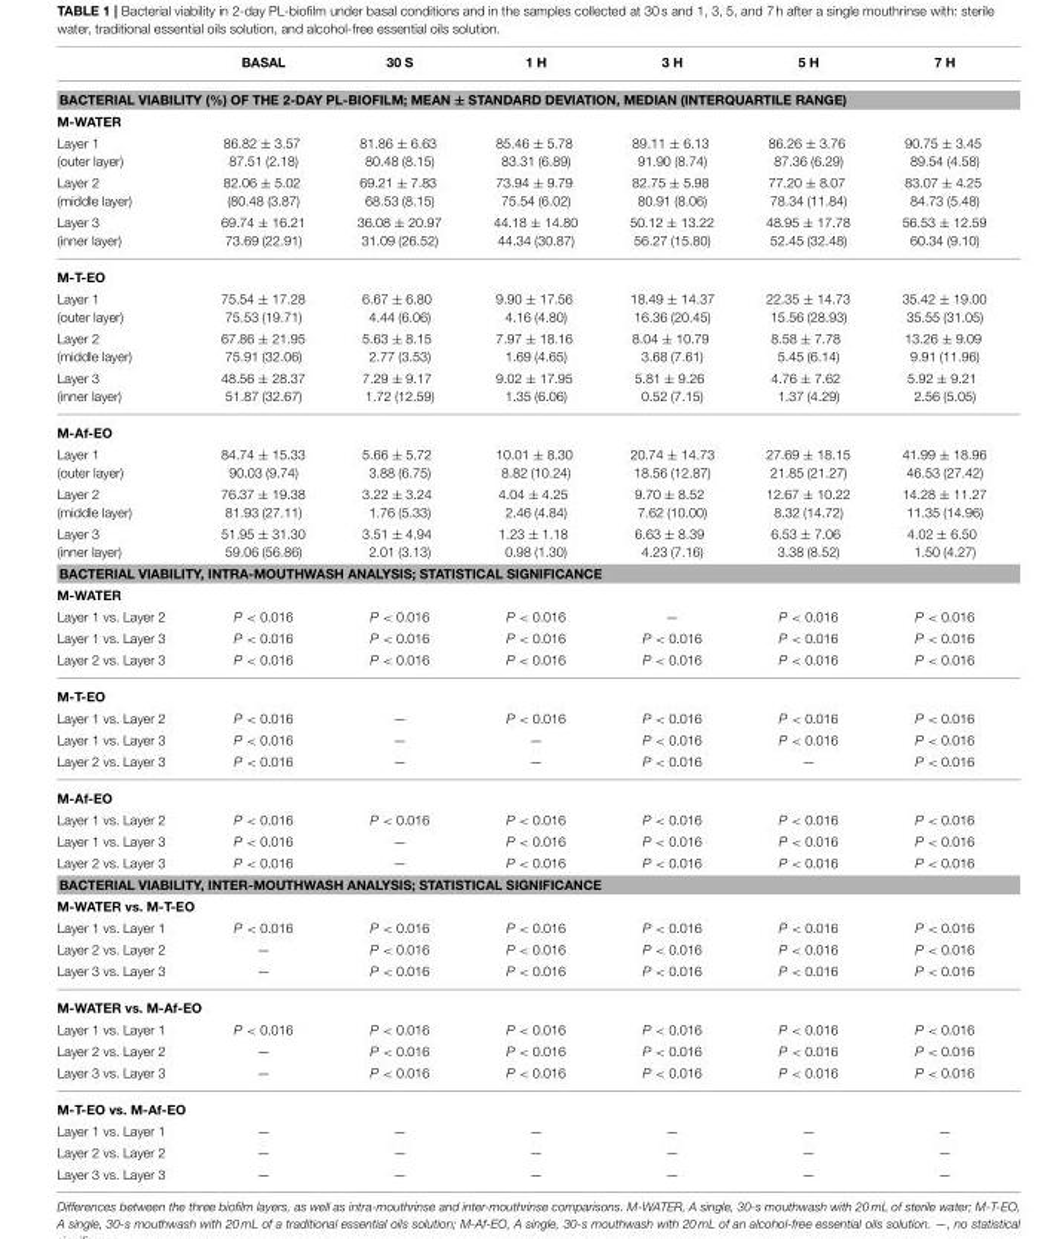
<table><thead><tr><td></td><td>BASAL</td><td>30 S</td><td>1 H</td><td>3 H</td><td>5 H</td><td>7 H</td></tr></thead><tbody><tr><td colspan="7">BACTERIAL VIABILITY (%) OF THE 2-DAY PL-BIOFILM; MEAN ± STANDARD DEVIATION, MEDIAN (INTERQUARTILE RANGE)</td></tr><tr><td colspan="7">M-WATER</td></tr><tr><td>Layer 1 (outer layer)</td><td>86.82 ± 3.57 87.51 (2.18)</td><td>81.86 ± 6.63 80.48 (8.15)</td><td>85.46 ± 5.78 83.31 (6.89)</td><td>89.11 ± 6.13 91.90 (8.74)</td><td>86.26 ± 3.76 87.36 (6.29)</td><td>90.75 ± 3.45 89.54 (4.58)</td></tr><tr><td>Layer 2 (middle layer)</td><td>82.06 ± 5.02 (80.48 (3.87)</td><td>69.21 ± 7.83 68.53 (8.15)</td><td>73.94 ± 9.79 75.54 (6.02)</td><td>82.75 ± 5.98 80.91 (8.06)</td><td>77.20 ± 8.07 78.34 (11.84)</td><td>83.07 ± 4.25 84.73 (5.48)</td></tr><tr><td>Layer 3 (inner layer)</td><td>69.74 ± 16.21 73.69 (22.91)</td><td>36.08 ± 20.97 31.09 (26.52)</td><td>44.18 ± 14.80 44.34 (30.87)</td><td>50.12 ± 13.22 56.27 (15.80)</td><td>48.95 ± 17.78 52.45 (32.48)</td><td>56.53 ± 12.59 60.34 (9.10)</td></tr><tr><td colspan="7">M-T-EO</td></tr><tr><td>Layer 1 (outer layer)</td><td>75.54 ± 17.28 75.53 (19.71)</td><td>6.67 ± 6.80 4.44 (6.06)</td><td>9.90 ± 17.56 4.16 (4.80)</td><td>18.49 ± 14.37 16.36 (20.45)</td><td>22.35 ± 14.73 15.56 (28.93)</td><td>35.42 ± 19.00 35.55 (31.05)</td></tr><tr><td>Layer 2 (middle layer)</td><td>67.86 ± 21.95 75.91 (32.06)</td><td>5.63 ± 8.15 2.77 (3.53)</td><td>7.97 ± 18.16 1.69 (4.65)</td><td>8.04 ± 10.79 3.68 (7.61)</td><td>8.58 ± 7.78 5.45 (6.14)</td><td>13.26 ± 9.09 9.91 (11.96)</td></tr><tr><td>Layer 3 (inner layer)</td><td>48.56 ± 28.37 51.87 (32.67)</td><td>7.29 ± 9.17 1.72 (12.59)</td><td>9.02 ± 17.95 1.35 (6.06)</td><td>5.81 ± 9.26 0.52 (7.15)</td><td>4.76 ± 7.62 1.37 (4.29)</td><td>5.92 ± 9.21 2.56 (5.05)</td></tr><tr><td colspan="7">M-Af-EO</td></tr><tr><td>Layer 1 (outer layer)</td><td>84.74 ± 15.33 90.03 (9.74)</td><td>5.66 ± 5.72 3.88 (6.75)</td><td>10.01 ± 8.30 8.82 (10.24)</td><td>20.74 ± 14.73 18.56 (12.87)</td><td>27.69 ± 18.15 21.85 (21.27)</td><td>41.99 ± 18.96 46.53 (27.42)</td></tr><tr><td>Layer 2 (middle layer)</td><td>76.37 ± 19.38 81.93 (27.11)</td><td>3.22 ± 3.24 1.76 (5.33)</td><td>4.04 ± 4.25 2.46 (4.84)</td><td>9.70 ± 8.52 7.62 (10.00)</td><td>12.67 ± 10.22 8.32 (14.72)</td><td>14.28 ± 11.27 11.35 (14.96)</td></tr><tr><td>Layer 3 (inner layer)</td><td>51.95 ± 31.30 59.06 (56.86)</td><td>3.51 ± 4.94 2.01 (3.13)</td><td>1.23 ± 1.18 0.98 (1.30)</td><td>6.63 ± 8.39 4.23 (7.16)</td><td>6.53 ± 7.06 3.38 (8.52)</td><td>4.02 ± 6.50 1.50 (4.27)</td></tr><tr><td colspan="7">BACTERIAL VIABILITY, INTRA-MOUTHWASH ANALYSIS; STATISTICAL SIGNIFICANCE</td></tr><tr><td colspan="7">M-WATER</td></tr><tr><td>Layer 1 vs. Layer 2</td><td>P &lt; 0.016</td><td>P &lt; 0.016</td><td>P &lt; 0.016</td><td>—</td><td>P &lt; 0.016</td><td>P &lt; 0.016</td></tr><tr><td>Layer 1 vs. Layer 3</td><td>P &lt; 0.016</td><td>P &lt; 0.016</td><td>P &lt; 0.016</td><td>P &lt; 0.016</td><td>P &lt; 0.016</td><td>P &lt; 0.016</td></tr><tr><td>Layer 2 vs. Layer 3</td><td>P &lt; 0.016</td><td>P &lt; 0.016</td><td>P &lt; 0.016</td><td>P &lt; 0.016</td><td>P &lt; 0.016</td><td>P &lt; 0.016</td></tr><tr><td colspan="7">M-T-EO</td></tr><tr><td>Layer 1 vs. Layer 2</td><td>P &lt; 0.016</td><td>—</td><td>P &lt; 0.016</td><td>P &lt; 0.016</td><td>P &lt; 0.016</td><td>P &lt; 0.016</td></tr><tr><td>Layer 1 vs. Layer 3</td><td>P &lt; 0.016</td><td>—</td><td>—</td><td>P &lt; 0.016</td><td>P &lt; 0.016</td><td>P &lt; 0.016</td></tr><tr><td>Layer 2 vs. Layer 3</td><td>P &lt; 0.016</td><td>—</td><td>—</td><td>P &lt; 0.016</td><td>—</td><td>P &lt; 0.016</td></tr><tr><td colspan="7">M-Af-EO</td></tr><tr><td>Layer 1 vs. Layer 2</td><td>P &lt; 0.016</td><td>P &lt; 0.016</td><td>P &lt; 0.016</td><td>P &lt; 0.016</td><td>P &lt; 0.016</td><td>P &lt; 0.016</td></tr><tr><td>Layer 1 vs. Layer 3</td><td>P &lt; 0.016</td><td>—</td><td>P &lt; 0.016</td><td>P &lt; 0.016</td><td>P &lt; 0.016</td><td>P &lt; 0.016</td></tr><tr><td>Layer 2 vs. Layer 3</td><td>P &lt; 0.016</td><td>—</td><td>P &lt; 0.016</td><td>P &lt; 0.016</td><td>P &lt; 0.016</td><td>P &lt; 0.016</td></tr><tr><td colspan="7">BACTERIAL VIABILITY, INTER-MOUTHWASH ANALYSIS; STATISTICAL SIGNIFICANCE</td></tr><tr><td colspan="7">M-WATER vs. M-T-EO</td></tr><tr><td>Layer 1 vs. Layer 1</td><td>P &lt; 0.016</td><td>P &lt; 0.016</td><td>P &lt; 0.016</td><td>P &lt; 0.016</td><td>P &lt; 0.016</td><td>P &lt; 0.016</td></tr><tr><td>Layer 2 vs. Layer 2</td><td>—</td><td>P &lt; 0.016</td><td>P &lt; 0.016</td><td>P &lt; 0.016</td><td>P &lt; 0.016</td><td>P &lt; 0.016</td></tr><tr><td>Layer 3 vs. Layer 3</td><td>—</td><td>P &lt; 0.016</td><td>P &lt; 0.016</td><td>P &lt; 0.016</td><td>P &lt; 0.016</td><td>P &lt; 0.016</td></tr><tr><td colspan="7">M-WATER vs. M-Af-EO</td></tr><tr><td>Layer 1 vs. Layer 1</td><td>P &lt; 0.016</td><td>P &lt; 0.016</td><td>P &lt; 0.016</td><td>P &lt; 0.016</td><td>P &lt; 0.016</td><td>P &lt; 0.016</td></tr><tr><td>Layer 2 vs. Layer 2</td><td>—</td><td>P &lt; 0.016</td><td>P &lt; 0.016</td><td>P &lt; 0.016</td><td>P &lt; 0.016</td><td>P &lt; 0.016</td></tr><tr><td>Layer 3 vs. Layer 3</td><td>—</td><td>P &lt; 0.016</td><td>P &lt; 0.016</td><td>P &lt; 0.016</td><td>P &lt; 0.016</td><td>P &lt; 0.016</td></tr><tr><td colspan="7">M-T-EO vs. M-Af-EO</td></tr><tr><td>Layer 1 vs. Layer 1</td><td>—</td><td>—</td><td>—</td><td>—</td><td>—</td><td>—</td></tr><tr><td>Layer 2 vs. Layer 2</td><td>—</td><td>—</td><td>—</td><td>—</td><td>—</td><td>—</td></tr><tr><td>Layer 3 vs. Layer 3</td><td>—</td><td>—</td><td>—</td><td>—</td><td>—</td><td>—</td></tr></tbody></table>